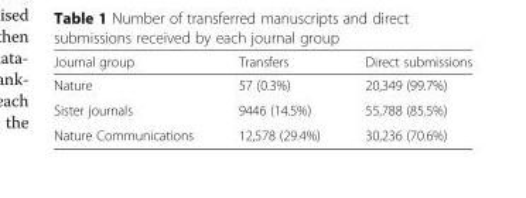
<table><thead><tr><td>Journal group</td><td>Transfers</td><td>Direct submissions</td></tr></thead><tbody><tr><td>Nature</td><td>57 (0.3%)</td><td>20,349 (99.7%)</td></tr><tr><td>Sister journals</td><td>9446 (14.5%)</td><td>55,788 (85.5%)</td></tr><tr><td>Nature Communications</td><td>12,578 (29.4%)</td><td>30,236 (70.6%)</td></tr></tbody></table>